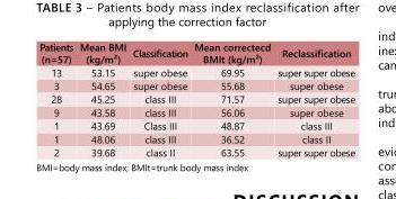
<table><tbody><tr><td>Patients (n=57)</td><td>Mean BMI (kg/m²)</td><td>Classification</td><td>Mean correctecd BMIt (kg/m²)</td><td>Reclassification</td></tr><tr><td>13</td><td>53.15</td><td>super obese</td><td>69.95</td><td>super super obese</td></tr><tr><td>3</td><td>54.65</td><td>super obese</td><td>55.68</td><td>super obese</td></tr><tr><td>28</td><td>45.25</td><td>class III</td><td>71.57</td><td>super super obese</td></tr><tr><td>9</td><td>43.58</td><td>class III</td><td>56.06</td><td>super obese</td></tr><tr><td>1</td><td>43.69</td><td>Class III</td><td>48.87</td><td>class III</td></tr><tr><td>1</td><td>48.06</td><td>class III</td><td>36.52</td><td>class II</td></tr><tr><td>2</td><td>39.68</td><td>class II</td><td>63.55</td><td>super super obese</td></tr></tbody></table>